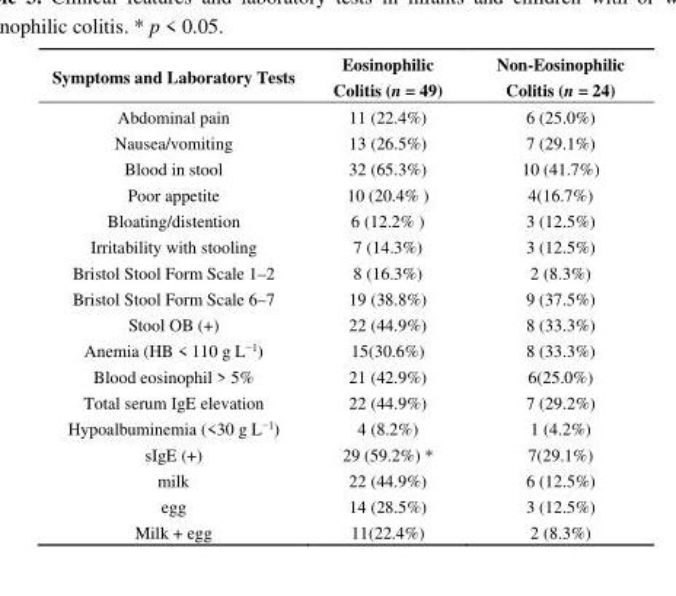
<table><thead><tr><td>Symptoms and Laboratory Tests</td><td>Eosinophilic Colitis (n = 49)</td><td>Non-Eosinophilic Colitis (n = 24)</td></tr></thead><tbody><tr><td>Abdominal pain</td><td>11 (22.4%)</td><td>6 (25.0%)</td></tr><tr><td>Nausea/vomiting</td><td>13 (26.5%)</td><td>7 (29.1%)</td></tr><tr><td>Blood in stool</td><td>32 (65.3%)</td><td>10 (41.7%)</td></tr><tr><td>Poor appetite</td><td>10 (20.4% )</td><td>4(16.7%)</td></tr><tr><td>Bloating/distention</td><td>6 (12.2% )</td><td>3 (12.5%)</td></tr><tr><td>Irritability with stooling</td><td>7 (14.3%)</td><td>3 (12.5%)</td></tr><tr><td>Bristol Stool Form Scale 1–2</td><td>8 (16.3%)</td><td>2 (8.3%)</td></tr><tr><td>Bristol Stool Form Scale 6–7</td><td>19 (38.8%)</td><td>9 (37.5%)</td></tr><tr><td>Stool OB (+)</td><td>22 (44.9%)</td><td>8 (33.3%)</td></tr><tr><td>Anemia (HB &lt; 110 g L<sup>−1</sup>)</td><td>15(30.6%)</td><td>8 (33.3%)</td></tr><tr><td>Blood eosinophil &gt; 5%</td><td>21 (42.9%)</td><td>6(25.0%)</td></tr><tr><td>Total serum IgE elevation</td><td>22 (44.9%)</td><td>7 (29.2%)</td></tr><tr><td>Hypoalbuminemia (&lt;30 g L<sup>−1</sup>)</td><td>4 (8.2%)</td><td>1 (4.2%)</td></tr><tr><td>sIgE (+)</td><td>29 (59.2%) *</td><td>7(29.1%)</td></tr><tr><td>milk</td><td>22 (44.9%)</td><td>6 (12.5%)</td></tr><tr><td>egg</td><td>14 (28.5%)</td><td>3 (12.5%)</td></tr><tr><td>Milk + egg</td><td>11(22.4%)</td><td>2 (8.3%)</td></tr></tbody></table>